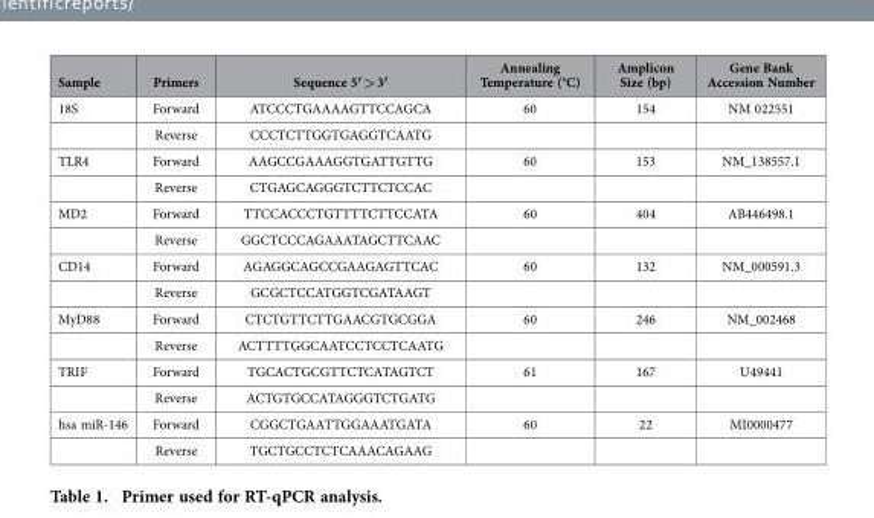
<table><thead><tr><td>Sample</td><td>Primers</td><td>Sequence 5′ &gt; 3′</td><td>Annealing Temperature (°C)</td><td>Amplicon Size (bp)</td><td>Gene Bank Accession Number</td></tr></thead><tbody><tr><td rowspan="2">18S</td><td>Forward</td><td>ATCCCTGAAAAGTTCCAGCA</td><td>60</td><td>154</td><td>NM 022551</td></tr><tr><td>Reverse</td><td>CCCTCTTGGTGAGGTCAATG</td><td></td><td></td><td></td></tr><tr><td rowspan="2">TLR4</td><td>Forward</td><td>AAGCCGAAAGGTGATTGTTG</td><td>60</td><td>153</td><td>NM_138557.1</td></tr><tr><td>Reverse</td><td>CTGAGCAGGGTCTTCTCCAC</td><td></td><td></td><td></td></tr><tr><td rowspan="2">MD2</td><td>Forward</td><td>TTCCACCCTGTTTTCTTCCATA</td><td>60</td><td>404</td><td>AB446498.1</td></tr><tr><td>Reverse</td><td>GGCTCCCAGAAATAGCTTCAAC</td><td></td><td></td><td></td></tr><tr><td rowspan="2">CD14</td><td>Forward</td><td>AGAGGCAGCCGAAGAGTTCAC</td><td>60</td><td>132</td><td>NM_000591.3</td></tr><tr><td>Reverse</td><td>GCGCTCCATGGTCGATAAGT</td><td></td><td></td><td></td></tr><tr><td rowspan="2">MyD88</td><td>Forward</td><td>CTCTGTTCTTGAACGTGCGGA</td><td>60</td><td>246</td><td>NM_002468</td></tr><tr><td>Reverse</td><td>ACTTTTGGCAATCCTCCTCAATG</td><td></td><td></td><td></td></tr><tr><td rowspan="2">TRIF</td><td>Forward</td><td>TGCACTGCGTTCTCATAGTCT</td><td>61</td><td>167</td><td>U49441</td></tr><tr><td>Reverse</td><td>ACTGTGCCATAGGGTCTGATG</td><td></td><td></td><td></td></tr><tr><td rowspan="2">hsa miR-146</td><td>Forward</td><td>CGGCTGAATTGGAAATGATA</td><td>60</td><td>22</td><td>MI0000477</td></tr><tr><td>Reverse</td><td>TGCTGCCTCTCAAACAGAAG</td><td></td><td></td><td></td></tr></tbody></table>